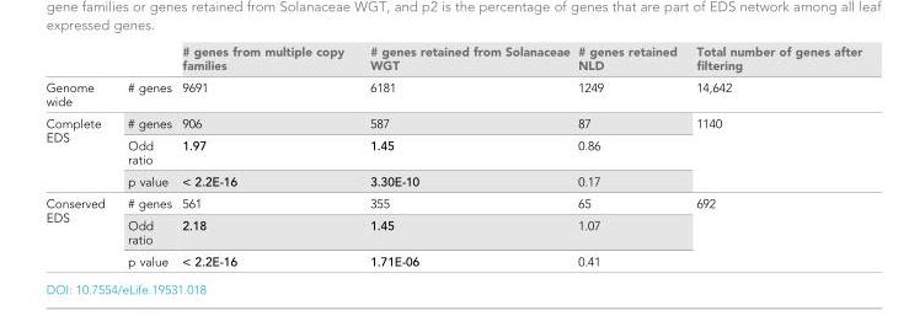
<table><thead><tr><td></td><td></td><td># genes from multiple copy families</td><td># genes retained from Solanaceae WGT</td><td># genes retained NLD</td><td>Total number of genes after filtering</td></tr></thead><tbody><tr><td>Genome wide</td><td># genes</td><td>9691</td><td>6181</td><td>1249</td><td>14,642</td></tr><tr><td rowspan="3">Complete EDS</td><td># genes</td><td>906</td><td>587</td><td>87</td><td rowspan="3">1140</td></tr><tr><td>Odd ratio</td><td>1.97</td><td>1.45</td><td>0.86</td></tr><tr><td>p value</td><td>&lt; 2.2E-16</td><td>3.30E-10</td><td>0.17</td></tr><tr><td rowspan="3">Conserved EDS</td><td># genes</td><td>561</td><td>355</td><td>65</td><td rowspan="3">692</td></tr><tr><td>Odd ratio</td><td>2.18</td><td>1.45</td><td>1.07</td></tr><tr><td>p value</td><td>&lt; 2.2E-16</td><td>1.71E-06</td><td>0.41</td></tr></tbody></table>